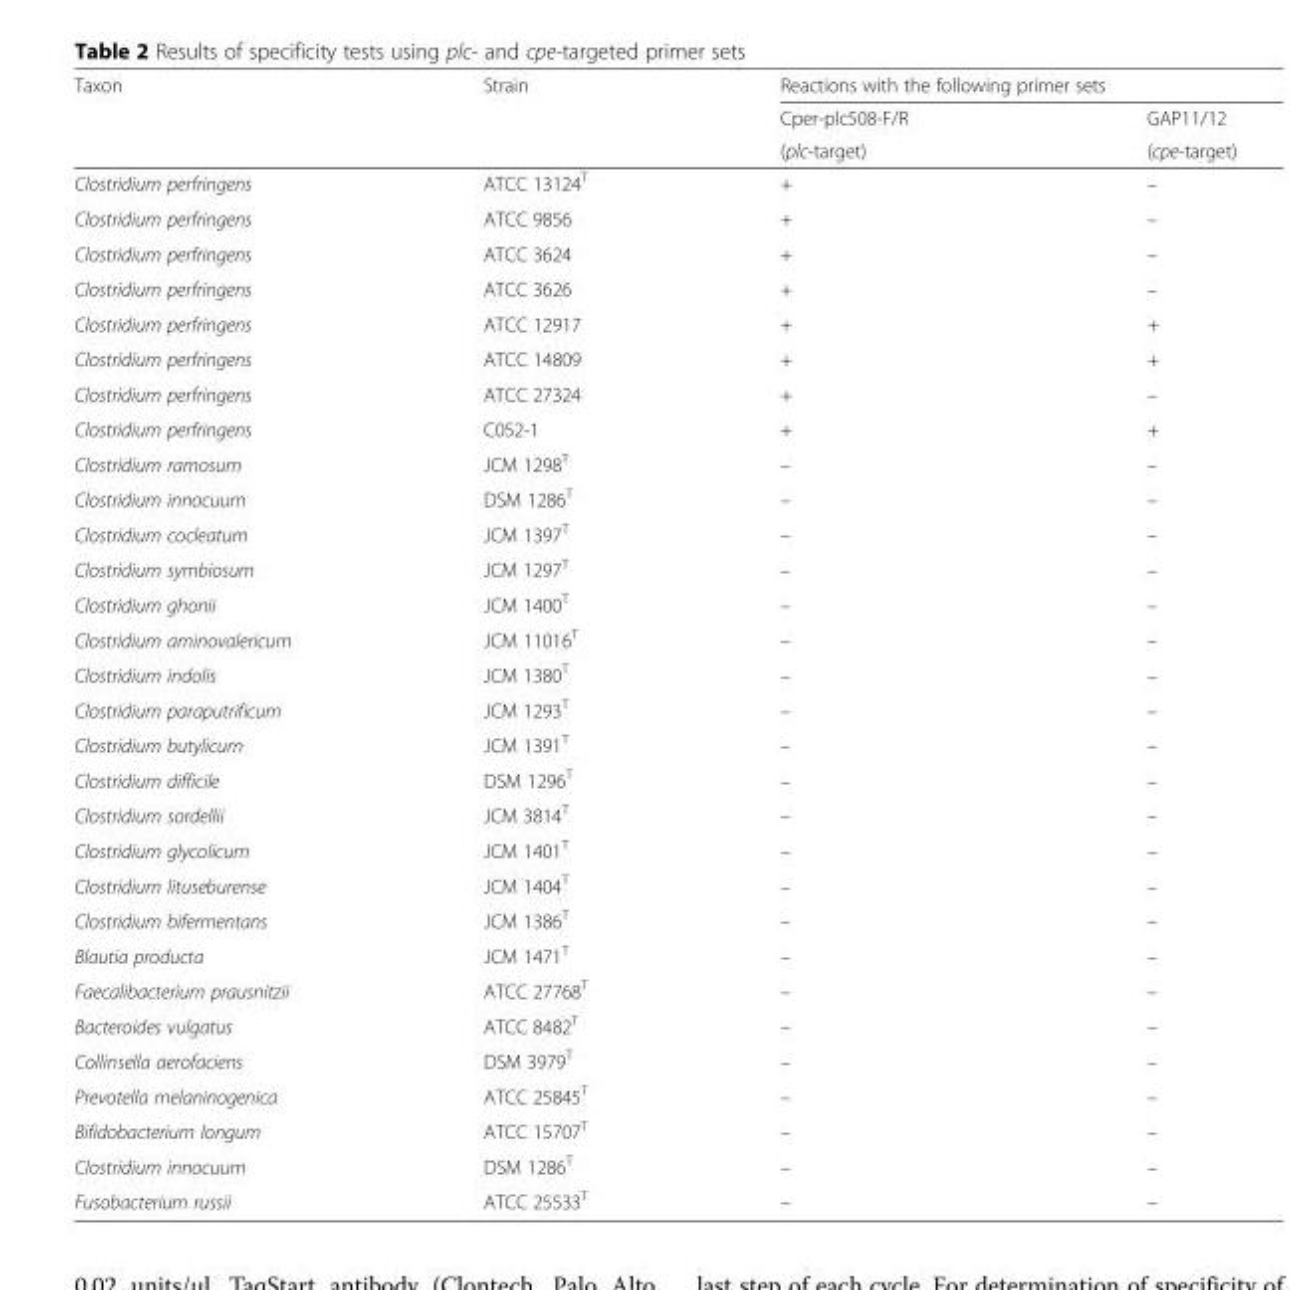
<table><thead><tr><td rowspan="3">Taxon</td><td rowspan="3">Strain</td><td colspan="2">Reactions with the following primer sets</td></tr><tr><td rowspan="2">Cper-plc508-F/R (plc-target)</td><td rowspan="2">GAP11/12 (cpe-target)</td></tr><tr></tr></thead><tbody><tr><td>Clostridium perfringens</td><td>ATCC 13124<sup>T</sup></td><td>+</td><td>–</td></tr><tr><td>Clostridium perfringens</td><td>ATCC 9856</td><td>+</td><td>–</td></tr><tr><td>Clostridium perfringens</td><td>ATCC 3624</td><td>+</td><td>–</td></tr><tr><td>Clostridium perfringens</td><td>ATCC 3626</td><td>+</td><td>–</td></tr><tr><td>Clostridium perfringens</td><td>ATCC 12917</td><td>+</td><td>+</td></tr><tr><td>Clostridium perfringens</td><td>ATCC 14809</td><td>+</td><td>+</td></tr><tr><td>Clostridium perfringens</td><td>ATCC 27324</td><td>+</td><td>–</td></tr><tr><td>Clostridium perfringens</td><td>C052-1</td><td>+</td><td>+</td></tr><tr><td>Clostridium ramosum</td><td>JCM 1298<sup>T</sup></td><td>–</td><td>–</td></tr><tr><td>Clostridium innocuum</td><td>DSM 1286<sup>T</sup></td><td>–</td><td>–</td></tr><tr><td>Clostridium cocleatum</td><td>JCM 1397<sup>T</sup></td><td>–</td><td>–</td></tr><tr><td>Clostridium symbiosum</td><td>JCM 1297<sup>T</sup></td><td>–</td><td>–</td></tr><tr><td>Clostridium ghonii</td><td>JCM 1400<sup>T</sup></td><td>–</td><td>–</td></tr><tr><td>Clostridium aminovalericum</td><td>JCM 11016<sup>T</sup></td><td>–</td><td>–</td></tr><tr><td>Clostridium indolis</td><td>JCM 1380<sup>T</sup></td><td>–</td><td>–</td></tr><tr><td>Clostridium paraputrificum</td><td>JCM 1293<sup>T</sup></td><td>–</td><td>–</td></tr><tr><td>Clostridium butylicum</td><td>JCM 1391<sup>T</sup></td><td>–</td><td>–</td></tr><tr><td>Clostridium difficile</td><td>DSM 1296<sup>T</sup></td><td>–</td><td>–</td></tr><tr><td>Clostridium sordellii</td><td>JCM 3814<sup>T</sup></td><td>–</td><td>–</td></tr><tr><td>Clostridium glycolicum</td><td>JCM 1401<sup>T</sup></td><td>–</td><td>–</td></tr><tr><td>Clostridium lituseburense</td><td>JCM 1404<sup>T</sup></td><td>–</td><td>–</td></tr><tr><td>Clostridium bifermentans</td><td>JCM 1386<sup>T</sup></td><td>–</td><td>–</td></tr><tr><td>Blautia producta</td><td>JCM 1471<sup>T</sup></td><td>–</td><td>–</td></tr><tr><td>Faecalibacterium prausnitzii</td><td>ATCC 27768<sup>T</sup></td><td>–</td><td>–</td></tr><tr><td>Bacteroides vulgatus</td><td>ATCC 8482<sup>T</sup></td><td>–</td><td>–</td></tr><tr><td>Collinsella aerofaciens</td><td>DSM 3979<sup>T</sup></td><td>–</td><td>–</td></tr><tr><td>Prevotella melaninogenica</td><td>ATCC 25845<sup>T</sup></td><td>–</td><td>–</td></tr><tr><td>Bifidobacterium longum</td><td>ATCC 15707<sup>T</sup></td><td>–</td><td>–</td></tr><tr><td>Clostridium innocuum</td><td>DSM 1286<sup>T</sup></td><td>–</td><td>–</td></tr><tr><td>Fusobacterium russii</td><td>ATCC 25533<sup>T</sup></td><td>–</td><td>–</td></tr></tbody></table>